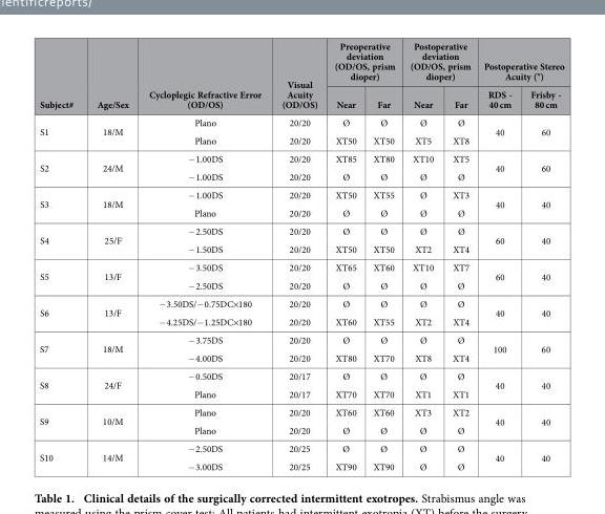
<table><thead><tr><td rowspan="2">Subject#</td><td rowspan="2">Age/Sex</td><td rowspan="2">Cycloplegic Refractive Error (OD/OS)</td><td rowspan="2">Visual Acuity (OD/OS)</td><td colspan="2">Preoperative deviation (OD/OS, prism dioper)</td><td colspan="2">Postoperative deviation (OD/OS, prism dioper)</td><td colspan="2">Postoperative Stereo Acuity (&quot;)</td></tr><tr><td>Near</td><td>Far</td><td>Near</td><td>Far</td><td>RDS - 40 cm</td><td>Frisby - 80 cm</td></tr></thead><tbody><tr><td rowspan="2">S1</td><td rowspan="2">18/M</td><td>Plano</td><td>20/20</td><td>Ø</td><td>Ø</td><td>Ø</td><td>Ø</td><td rowspan="2">40</td><td rowspan="2">60</td></tr><tr><td>Plano</td><td>20/20</td><td>XT50</td><td>XT50</td><td>XT5</td><td>XT8</td></tr><tr><td rowspan="2">S2</td><td rowspan="2">24/M</td><td>− 1.00DS</td><td>20/20</td><td>XT85</td><td>XT80</td><td>XT10</td><td>XT5</td><td rowspan="2">40</td><td rowspan="2">60</td></tr><tr><td>− 1.00DS</td><td>20/20</td><td>Ø</td><td>Ø</td><td>Ø</td><td>Ø</td></tr><tr><td rowspan="2">S3</td><td rowspan="2">18/M</td><td>− 1.00DS</td><td>20/20</td><td>XT50</td><td>XT55</td><td>Ø</td><td>XT3</td><td rowspan="2">40</td><td rowspan="2">40</td></tr><tr><td>Plano</td><td>20/20</td><td>Ø</td><td>Ø</td><td>Ø</td><td>Ø</td></tr><tr><td rowspan="2">S4</td><td rowspan="2">25/F</td><td>− 2.50DS</td><td>20/20</td><td>Ø</td><td>Ø</td><td>Ø</td><td>Ø</td><td rowspan="2">60</td><td rowspan="2">40</td></tr><tr><td>− 1.50DS</td><td>20/20</td><td>XT50</td><td>XT50</td><td>XT2</td><td>XT4</td></tr><tr><td rowspan="2">S5</td><td rowspan="2">13/F</td><td>− 3.50DS</td><td>20/20</td><td>XT65</td><td>XT60</td><td>XT10</td><td>XT7</td><td rowspan="2">60</td><td rowspan="2">40</td></tr><tr><td>− 2.50DS</td><td>20/20</td><td>Ø</td><td>Ø</td><td>Ø</td><td>Ø</td></tr><tr><td rowspan="2">S6</td><td rowspan="2">13/F</td><td>− 3.50DS/− 0.75DC×180</td><td>20/20</td><td>Ø</td><td>Ø</td><td>Ø</td><td>Ø</td><td rowspan="2">40</td><td rowspan="2">40</td></tr><tr><td>− 4.25DS/− 1.25DC×180</td><td>20/20</td><td>XT60</td><td>XT55</td><td>XT2</td><td>XT4</td></tr><tr><td rowspan="2">S7</td><td rowspan="2">18/M</td><td>− 3.75DS</td><td>20/20</td><td>Ø</td><td>Ø</td><td>Ø</td><td>Ø</td><td rowspan="2">100</td><td rowspan="2">60</td></tr><tr><td>− 4.00DS</td><td>20/20</td><td>XT80</td><td>XT70</td><td>XT8</td><td>XT4</td></tr><tr><td rowspan="2">S8</td><td rowspan="2">24/F</td><td>− 0.50DS</td><td>20/17</td><td>Ø</td><td>Ø</td><td>Ø</td><td>Ø</td><td rowspan="2">40</td><td rowspan="2">40</td></tr><tr><td>Plano</td><td>20/17</td><td>XT70</td><td>XT70</td><td>XT1</td><td>XT1</td></tr><tr><td rowspan="2">S9</td><td rowspan="2">10/M</td><td>Plano</td><td>20/20</td><td>XT60</td><td>XT60</td><td>XT3</td><td>XT2</td><td rowspan="2">40</td><td rowspan="2">40</td></tr><tr><td>Plano</td><td>20/20</td><td>Ø</td><td>Ø</td><td>Ø</td><td>Ø</td></tr><tr><td rowspan="2">S10</td><td rowspan="2">14/M</td><td>− 2.50DS</td><td>20/25</td><td>Ø</td><td>Ø</td><td>Ø</td><td>Ø</td><td rowspan="2">40</td><td rowspan="2">40</td></tr><tr><td>− 3.00DS</td><td>20/25</td><td>XT90</td><td>XT90</td><td>Ø</td><td>Ø</td></tr></tbody></table>